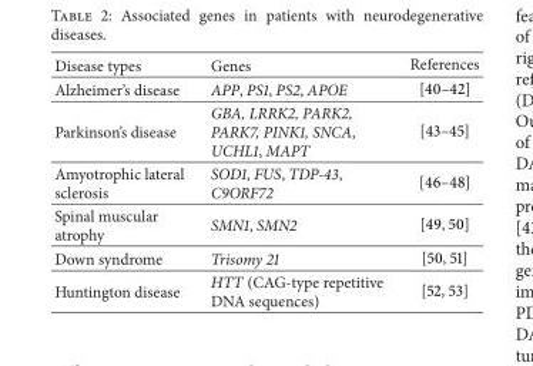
<table><thead><tr><td>Disease types</td><td>Genes</td><td>References</td></tr></thead><tbody><tr><td>Alzheimer’s disease</td><td>APP, PS1, PS2, APOE</td><td>[40–42]</td></tr><tr><td>Parkinson’s disease</td><td>GBA, LRRK2, PARK2, PARK7, PINK1, SNCA, UCHL1, MAPT</td><td>[43–45]</td></tr><tr><td>Amyotrophic lateral sclerosis</td><td>SOD1, FUS, TDP-43, C9ORF72</td><td>[46–48]</td></tr><tr><td>Spinal muscular atrophy</td><td>SMN1, SMN2</td><td>[49, 50]</td></tr><tr><td>Down syndrome</td><td>Trisomy 21</td><td>[50, 51]</td></tr><tr><td>Huntington disease</td><td>HTT (CAG-type repetitive DNA sequences)</td><td>[52, 53]</td></tr></tbody></table>